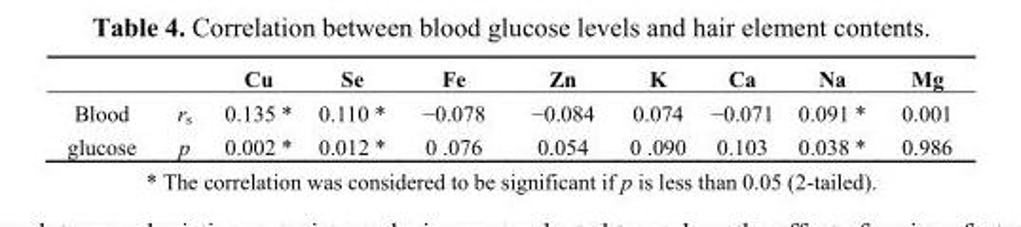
<table><thead><tr><td></td><td></td><td>Cu</td><td>Se</td><td>Fe</td><td>Zn</td><td>K</td><td>Ca</td><td>Na</td><td>Mg</td></tr></thead><tbody><tr><td>Blood glucose</td><td>r<sub>s</sub> p</td><td>0.135 * 0.002 *</td><td>0.110 * 0.012 *</td><td>−0.078 0 .076</td><td>−0.084 0.054</td><td>0.074 0 .090</td><td>−0.071 0.103</td><td>0.091 * 0.038 *</td><td>0.001 0.986</td></tr></tbody></table>